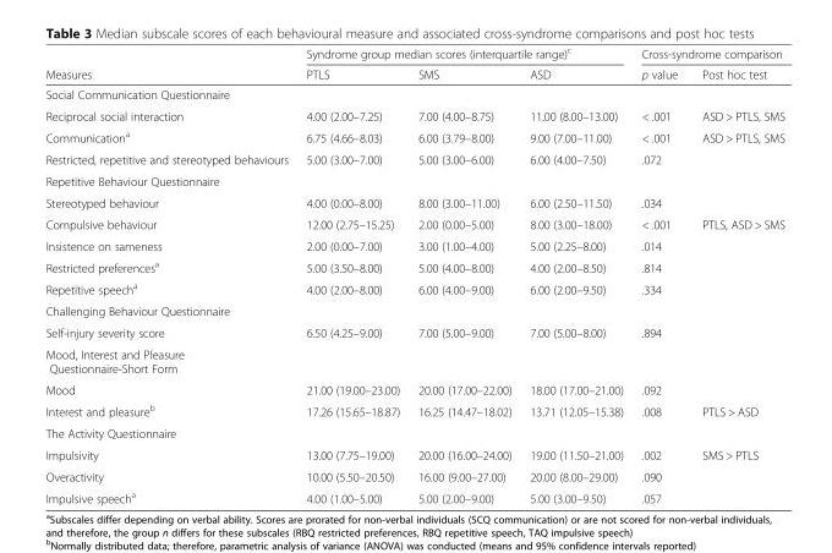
<table><thead><tr><td rowspan="2">Measures</td><td colspan="3">Syndrome group median scores (interquartile range)<sup>c</sup></td><td colspan="2">Cross-syndrome comparison</td></tr><tr><td>PTLS</td><td>SMS</td><td>ASD</td><td>p value</td><td>Post hoc test</td></tr></thead><tbody><tr><td colspan="6">Social Communication Questionnaire</td></tr><tr><td>Reciprocal social interaction</td><td>4.00 (2.00–7.25)</td><td>7.00 (4.00–8.75)</td><td>11.00 (8.00–13.00)</td><td>&lt; .001</td><td>ASD &gt; PTLS, SMS</td></tr><tr><td>Communication<sup>a</sup></td><td>6.75 (4.66–8.03)</td><td>6.00 (3.79–8.00)</td><td>9.00 (7.00–11.00)</td><td>&lt; .001</td><td>ASD &gt; PTLS, SMS</td></tr><tr><td>Restricted, repetitive and stereotyped behaviours</td><td>5.00 (3.00–7.00)</td><td>5.00 (3.00–6.00)</td><td>6.00 (4.00–7.50)</td><td>.072</td><td></td></tr><tr><td colspan="6">Repetitive Behaviour Questionnaire</td></tr><tr><td>Stereotyped behaviour</td><td>4.00 (0.00–8.00)</td><td>8.00 (3.00–11.00)</td><td>6.00 (2.50–11.50)</td><td>.034</td><td></td></tr><tr><td>Compulsive behaviour</td><td>12.00 (2.75–15.25)</td><td>2.00 (0.00–5.00)</td><td>8.00 (3.00–18.00)</td><td>&lt; .001</td><td>PTLS, ASD &gt; SMS</td></tr><tr><td>Insistence on sameness</td><td>2.00 (0.00–7.00)</td><td>3.00 (1.00–4.00)</td><td>5.00 (2.25–8.00)</td><td>.014</td><td></td></tr><tr><td>Restricted preferences<sup>a</sup></td><td>5.00 (3.50–8.00)</td><td>5.00 (4.00–8.00)</td><td>4.00 (2.00–8.50)</td><td>.814</td><td></td></tr><tr><td>Repetitive speech<sup>a</sup></td><td>4.00 (2.00–8.00)</td><td>6.00 (4.00–9.00)</td><td>6.00 (2.00–9.50)</td><td>.334</td><td></td></tr><tr><td colspan="6">Challenging Behaviour Questionnaire</td></tr><tr><td>Self-injury severity score</td><td>6.50 (4.25–9.00)</td><td>7.00 (5.00–9.00)</td><td>7.00 (5.00–8.00)</td><td>.894</td><td></td></tr><tr><td colspan="6">Mood, Interest and Pleasure Questionnaire-Short Form</td></tr><tr><td>Mood</td><td>21.00 (19.00–23.00)</td><td>20.00 (17.00–22.00)</td><td>18.00 (17.00–21.00)</td><td>.092</td><td></td></tr><tr><td>Interest and pleasure<sup>b</sup></td><td>17.26 (15.65–18.87)</td><td>16.25 (14.47–18.02)</td><td>13.71 (12.05–15.38)</td><td>.008</td><td>PTLS &gt; ASD</td></tr><tr><td colspan="6">The Activity Questionnaire</td></tr><tr><td>Impulsivity</td><td>13.00 (7.75–19.00)</td><td>20.00 (16.00–24.00)</td><td>19.00 (11.50–21.00)</td><td>.002</td><td>SMS &gt; PTLS</td></tr><tr><td>Overactivity</td><td>10.00 (5.50–20.50)</td><td>16.00 (9.00–27.00)</td><td>20.00 (8.00–29.00)</td><td>.090</td><td></td></tr><tr><td>Impulsive speech<sup>a</sup></td><td>4.00 (1.00–5.00)</td><td>5.00 (2.00–9.00)</td><td>5.00 (3.00–9.50)</td><td>.057</td><td></td></tr></tbody></table>